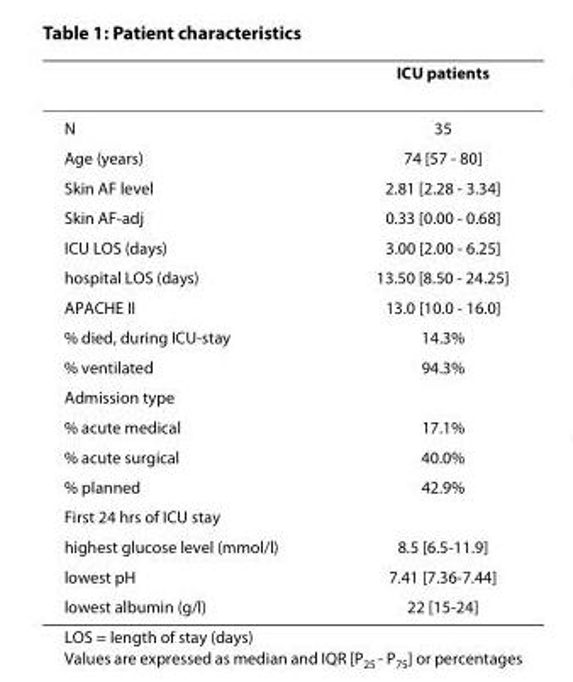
<table><thead><tr><td></td><td>ICU patients</td></tr></thead><tbody><tr><td>N</td><td>35</td></tr><tr><td>Age (years)</td><td>74 [57 - 80]</td></tr><tr><td>Skin AF level</td><td>2.81 [2.28 - 3.34]</td></tr><tr><td>Skin AF-adj</td><td>0.33 [0.00 - 0.68]</td></tr><tr><td>ICU LOS (days)</td><td>3.00 [2.00 - 6.25]</td></tr><tr><td>hospital LOS (days)</td><td>13.50 [8.50 - 24.25]</td></tr><tr><td>APACHE II</td><td>13.0 [10.0 - 16.0]</td></tr><tr><td>% died, during ICU-stay</td><td>14.3%</td></tr><tr><td>% ventilated</td><td>94.3%</td></tr><tr><td colspan="2">Admission type</td></tr><tr><td>% acute medical</td><td>17.1%</td></tr><tr><td>% acute surgical</td><td>40.0%</td></tr><tr><td>% planned</td><td>42.9%</td></tr><tr><td colspan="2">First 24 hrs of ICU stay</td></tr><tr><td>highest glucose level (mmol/l)</td><td>8.5 [6.5-11.9]</td></tr><tr><td>lowest pH</td><td>7.41 [7.36-7.44]</td></tr><tr><td>lowest albumin (g/l)</td><td>22 [15-24]</td></tr></tbody></table>